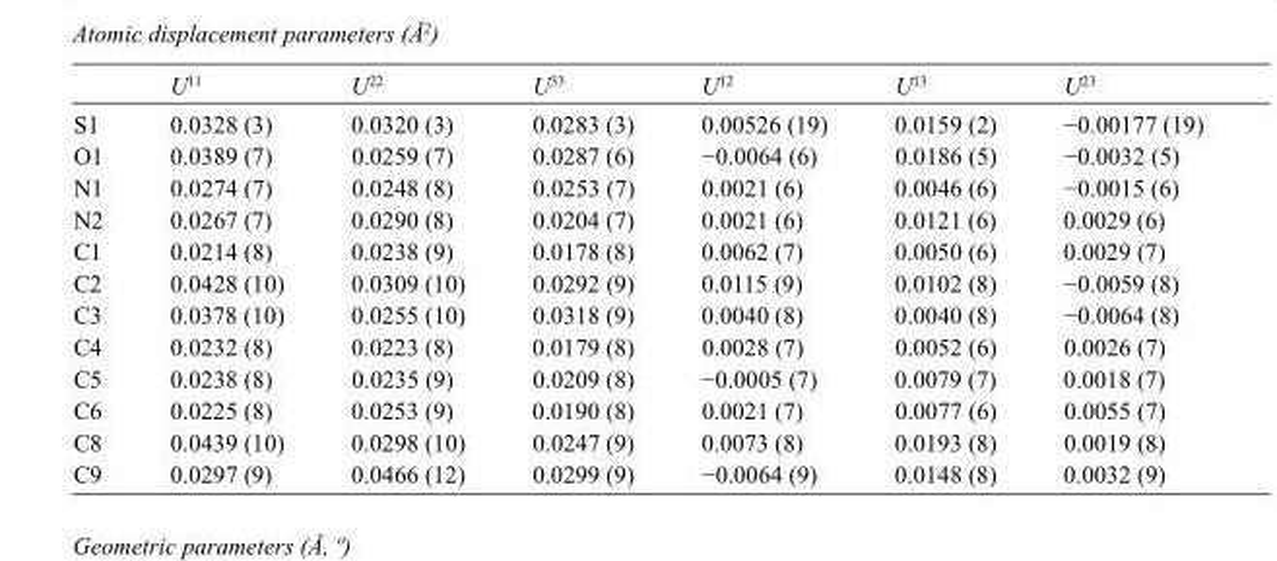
<table><thead><tr><td></td><td>U<sup>11</sup></td><td>U<sup>22</sup></td><td>U<sup>33</sup></td><td>U<sup>12</sup></td><td>U<sup>13</sup></td><td>U<sup>23</sup></td></tr></thead><tbody><tr><td>S1</td><td>0.0328 (3)</td><td>0.0320 (3)</td><td>0.0283 (3)</td><td>0.00526 (19)</td><td>0.0159 (2)</td><td>−0.00177 (19)</td></tr><tr><td>O1</td><td>0.0389 (7)</td><td>0.0259 (7)</td><td>0.0287 (6)</td><td>−0.0064 (6)</td><td>0.0186 (5)</td><td>−0.0032 (5)</td></tr><tr><td>N1</td><td>0.0274 (7)</td><td>0.0248 (8)</td><td>0.0253 (7)</td><td>0.0021 (6)</td><td>0.0046 (6)</td><td>−0.0015 (6)</td></tr><tr><td>N2</td><td>0.0267 (7)</td><td>0.0290 (8)</td><td>0.0204 (7)</td><td>0.0021 (6)</td><td>0.0121 (6)</td><td>0.0029 (6)</td></tr><tr><td>C1</td><td>0.0214 (8)</td><td>0.0238 (9)</td><td>0.0178 (8)</td><td>0.0062 (7)</td><td>0.0050 (6)</td><td>0.0029 (7)</td></tr><tr><td>C2</td><td>0.0428 (10)</td><td>0.0309 (10)</td><td>0.0292 (9)</td><td>0.0115 (9)</td><td>0.0102 (8)</td><td>−0.0059 (8)</td></tr><tr><td>C3</td><td>0.0378 (10)</td><td>0.0255 (10)</td><td>0.0318 (9)</td><td>0.0040 (8)</td><td>0.0040 (8)</td><td>−0.0064 (8)</td></tr><tr><td>C4</td><td>0.0232 (8)</td><td>0.0223 (8)</td><td>0.0179 (8)</td><td>0.0028 (7)</td><td>0.0052 (6)</td><td>0.0026 (7)</td></tr><tr><td>C5</td><td>0.0238 (8)</td><td>0.0235 (9)</td><td>0.0209 (8)</td><td>−0.0005 (7)</td><td>0.0079 (7)</td><td>0.0018 (7)</td></tr><tr><td>C6</td><td>0.0225 (8)</td><td>0.0253 (9)</td><td>0.0190 (8)</td><td>0.0021 (7)</td><td>0.0077 (6)</td><td>0.0055 (7)</td></tr><tr><td>C8</td><td>0.0439 (10)</td><td>0.0298 (10)</td><td>0.0247 (9)</td><td>0.0073 (8)</td><td>0.0193 (8)</td><td>0.0019 (8)</td></tr><tr><td>C9</td><td>0.0297 (9)</td><td>0.0466 (12)</td><td>0.0299 (9)</td><td>−0.0064 (9)</td><td>0.0148 (8)</td><td>0.0032 (9)</td></tr></tbody></table>